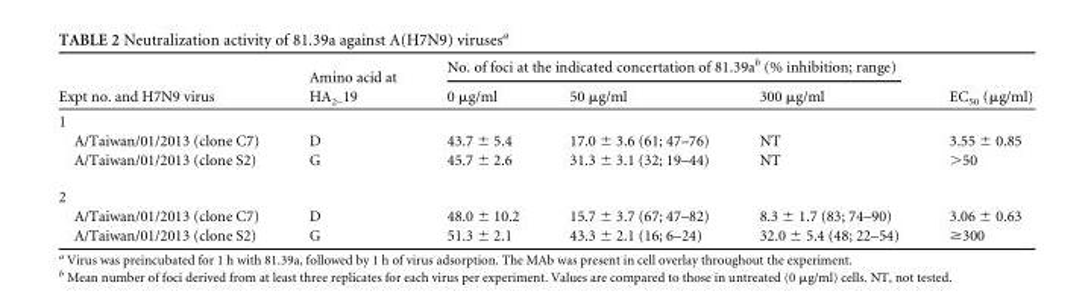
<table><thead><tr><td rowspan="2">Expt no. and H7N9 virus</td><td rowspan="2">Amino acid at HA<sub>2–</sub>19</td><td colspan="3">No. of foci at the indicated concertation of 81.39a<sup>b</sup> (% inhibition; range)</td><td rowspan="2">EC<sub>50</sub> (μg/ml)</td></tr><tr><td>0 μg/ml</td><td>50 μg/ml</td><td>300 μg/ml</td></tr></thead><tbody><tr><td colspan="6">1</td></tr><tr><td>A/Taiwan/01/2013 (clone C7)</td><td>D</td><td>43.7 ± 5.4</td><td>17.0 ± 3.6 (61; 47–76)</td><td>NT</td><td>3.55 ± 0.85</td></tr><tr><td>A/Taiwan/01/2013 (clone S2)</td><td>G</td><td>45.7 ± 2.6</td><td>31.3 ± 3.1 (32; 19–44)</td><td>NT</td><td>&gt;50</td></tr><tr><td colspan="6">2</td></tr><tr><td>A/Taiwan/01/2013 (clone C7)</td><td>D</td><td>48.0 ± 10.2</td><td>15.7 ± 3.7 (67; 47–82)</td><td>8.3 ± 1.7 (83; 74–90)</td><td>3.06 ± 0.63</td></tr><tr><td>A/Taiwan/01/2013 (clone S2)</td><td>G</td><td>51.3 ± 2.1</td><td>43.3 ± 2.1 (16; 6–24)</td><td>32.0 ± 5.4 (48; 22–54)</td><td>≥300</td></tr></tbody></table>